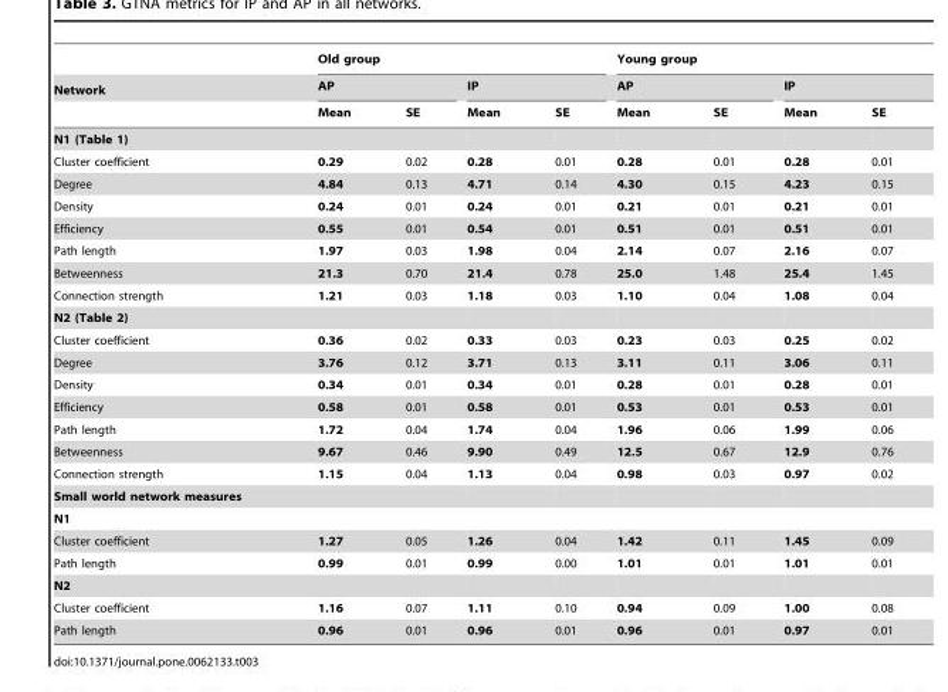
<table><thead><tr><td rowspan="3">Network</td><td colspan="4">Old group</td><td colspan="4">Young group</td></tr><tr><td colspan="2">AP</td><td colspan="2">IP</td><td colspan="2">AP</td><td colspan="2">IP</td></tr><tr><td>Mean</td><td>SE</td><td>Mean</td><td>SE</td><td>Mean</td><td>SE</td><td>Mean</td><td>SE</td></tr></thead><tbody><tr><td colspan="9">N1 (Table 1)</td></tr><tr><td>Cluster coefficient</td><td>0.29</td><td>0.02</td><td>0.28</td><td>0.01</td><td>0.28</td><td>0.01</td><td>0.28</td><td>0.01</td></tr><tr><td>Degree</td><td>4.84</td><td>0.13</td><td>4.71</td><td>0.14</td><td>4.30</td><td>0.15</td><td>4.23</td><td>0.15</td></tr><tr><td>Density</td><td>0.24</td><td>0.01</td><td>0.24</td><td>0.01</td><td>0.21</td><td>0.01</td><td>0.21</td><td>0.01</td></tr><tr><td>Efficiency</td><td>0.55</td><td>0.01</td><td>0.54</td><td>0.01</td><td>0.51</td><td>0.01</td><td>0.51</td><td>0.01</td></tr><tr><td>Path length</td><td>1.97</td><td>0.03</td><td>1.98</td><td>0.04</td><td>2.14</td><td>0.07</td><td>2.16</td><td>0.07</td></tr><tr><td>Betweenness</td><td>21.3</td><td>0.70</td><td>21.4</td><td>0.78</td><td>25.0</td><td>1.48</td><td>25.4</td><td>1.45</td></tr><tr><td>Connection strength</td><td>1.21</td><td>0.03</td><td>1.18</td><td>0.03</td><td>1.10</td><td>0.04</td><td>1.08</td><td>0.04</td></tr><tr><td colspan="9">N2 (Table 2)</td></tr><tr><td>Cluster coefficient</td><td>0.36</td><td>0.02</td><td>0.33</td><td>0.03</td><td>0.23</td><td>0.03</td><td>0.25</td><td>0.02</td></tr><tr><td>Degree</td><td>3.76</td><td>0.12</td><td>3.71</td><td>0.13</td><td>3.11</td><td>0.11</td><td>3.06</td><td>0.11</td></tr><tr><td>Density</td><td>0.34</td><td>0.01</td><td>0.34</td><td>0.01</td><td>0.28</td><td>0.01</td><td>0.28</td><td>0.01</td></tr><tr><td>Efficiency</td><td>0.58</td><td>0.01</td><td>0.58</td><td>0.01</td><td>0.53</td><td>0.01</td><td>0.53</td><td>0.01</td></tr><tr><td>Path length</td><td>1.72</td><td>0.04</td><td>1.74</td><td>0.04</td><td>1.96</td><td>0.06</td><td>1.99</td><td>0.06</td></tr><tr><td>Betweenness</td><td>9.67</td><td>0.46</td><td>9.90</td><td>0.49</td><td>12.5</td><td>0.67</td><td>12.9</td><td>0.76</td></tr><tr><td>Connection strength</td><td>1.15</td><td>0.04</td><td>1.13</td><td>0.04</td><td>0.98</td><td>0.03</td><td>0.97</td><td>0.02</td></tr><tr><td colspan="9">Small world network measures</td></tr><tr><td colspan="9">N1</td></tr><tr><td>Cluster coefficient</td><td>1.27</td><td>0.05</td><td>1.26</td><td>0.04</td><td>1.42</td><td>0.11</td><td>1.45</td><td>0.09</td></tr><tr><td>Path length</td><td>0.99</td><td>0.01</td><td>0.99</td><td>0.00</td><td>1.01</td><td>0.01</td><td>1.01</td><td>0.01</td></tr><tr><td colspan="9">N2</td></tr><tr><td>Cluster coefficient</td><td>1.16</td><td>0.07</td><td>1.11</td><td>0.10</td><td>0.94</td><td>0.09</td><td>1.00</td><td>0.08</td></tr><tr><td>Path length</td><td>0.96</td><td>0.01</td><td>0.96</td><td>0.01</td><td>0.96</td><td>0.01</td><td>0.97</td><td>0.01</td></tr></tbody></table>